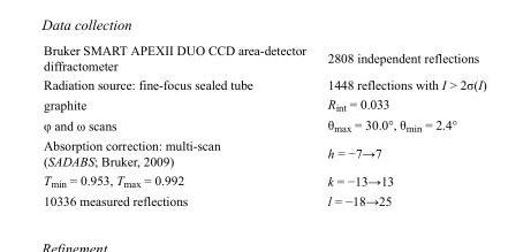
<table><tbody><tr><td>Bruker SMART APEXII DUO CCD area-detector diffractometer</td><td>2808 independent reflections</td></tr><tr><td>Radiation source: fine-focus sealed tube</td><td>1448 reflections with I &gt; 2σ(I)</td></tr><tr><td>graphite</td><td>R<sub>int</sub> = 0.033</td></tr><tr><td>φ and ω scans</td><td>θ<sub>max</sub> = 30.0°, θ<sub>min</sub> = 2.4°</td></tr><tr><td>Absorption correction: multi-scan (SADABS; Bruker, 2009)</td><td>h = −7→7</td></tr><tr><td>T<sub>min</sub> = 0.953, T<sub>max</sub> = 0.992</td><td>k = −13→13</td></tr><tr><td>10336 measured reflections</td><td>l = −18→25</td></tr></tbody></table>